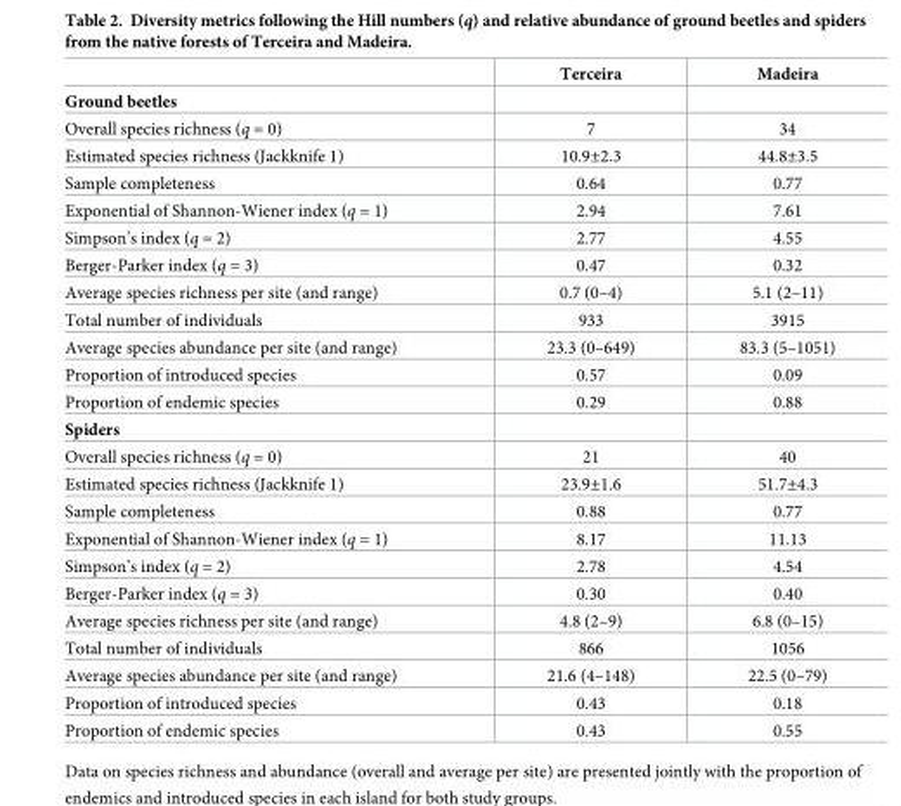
<table><thead><tr><td></td><td>Terceira</td><td>Madeira</td></tr></thead><tbody><tr><td colspan="3">Ground beetles</td></tr><tr><td>Overall species richness (q = 0)</td><td>7</td><td>34</td></tr><tr><td>Estimated species richness (Jackknife 1)</td><td>10.9±2.3</td><td>44.8±3.5</td></tr><tr><td>Sample completeness</td><td>0.64</td><td>0.77</td></tr><tr><td>Exponential of Shannon-Wiener index (q = 1)</td><td>2.94</td><td>7.61</td></tr><tr><td>Simpson’s index (q = 2)</td><td>2.77</td><td>4.55</td></tr><tr><td>Berger-Parker index (q = 3)</td><td>0.47</td><td>0.32</td></tr><tr><td>Average species richness per site (and range)</td><td>0.7 (0–4)</td><td>5.1 (2–11)</td></tr><tr><td>Total number of individuals</td><td>933</td><td>3915</td></tr><tr><td>Average species abundance per site (and range)</td><td>23.3 (0–649)</td><td>83.3 (5–1051)</td></tr><tr><td>Proportion of introduced species</td><td>0.57</td><td>0.09</td></tr><tr><td>Proportion of endemic species</td><td>0.29</td><td>0.88</td></tr><tr><td colspan="3">Spiders</td></tr><tr><td>Overall species richness (q = 0)</td><td>21</td><td>40</td></tr><tr><td>Estimated species richness (Jackknife 1)</td><td>23.9±1.6</td><td>51.7±4.3</td></tr><tr><td>Sample completeness</td><td>0.88</td><td>0.77</td></tr><tr><td>Exponential of Shannon-Wiener index (q = 1)</td><td>8.17</td><td>11.13</td></tr><tr><td>Simpson’s index (q = 2)</td><td>2.78</td><td>4.54</td></tr><tr><td>Berger-Parker index (q = 3)</td><td>0.30</td><td>0.40</td></tr><tr><td>Average species richness per site (and range)</td><td>4.8 (2–9)</td><td>6.8 (0–15)</td></tr><tr><td>Total number of individuals</td><td>866</td><td>1056</td></tr><tr><td>Average species abundance per site (and range)</td><td>21.6 (4–148)</td><td>22.5 (0–79)</td></tr><tr><td>Proportion of introduced species</td><td>0.43</td><td>0.18</td></tr><tr><td>Proportion of endemic species</td><td>0.43</td><td>0.55</td></tr></tbody></table>